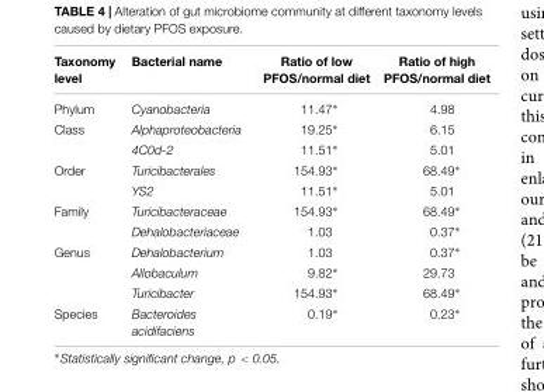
<table><thead><tr><td>Taxonomy level</td><td>Bacterial name</td><td>Ratio of low PFOS/normal diet</td><td>Ratio of high PFOS/normal diet</td></tr></thead><tbody><tr><td>Phylum</td><td>Cyanobacteria</td><td>11.47∗</td><td>4.98</td></tr><tr><td rowspan="2">Class</td><td>Alphaproteobacteria</td><td>19.25∗</td><td>6.15</td></tr><tr><td>4C0d-2</td><td>11.51∗</td><td>5.01</td></tr><tr><td rowspan="2">Order</td><td>Turicibacterales</td><td>154.93∗</td><td>68.49∗</td></tr><tr><td>YS2</td><td>11.51∗</td><td>5.01</td></tr><tr><td rowspan="2">Family</td><td>Turicibacteraceae</td><td>154.93∗</td><td>68.49∗</td></tr><tr><td>Dehalobacteriaceae</td><td>1.03</td><td>0.37∗</td></tr><tr><td rowspan="3">Genus</td><td>Dehalobacterium</td><td>1.03</td><td>0.37∗</td></tr><tr><td>Allobaculum</td><td>9.82∗</td><td>29.73</td></tr><tr><td>Turicibacter</td><td>154.93∗</td><td>68.49∗</td></tr><tr><td>Species</td><td>Bacteroides acidifaciens</td><td>0.19∗</td><td>0.23∗</td></tr></tbody></table>